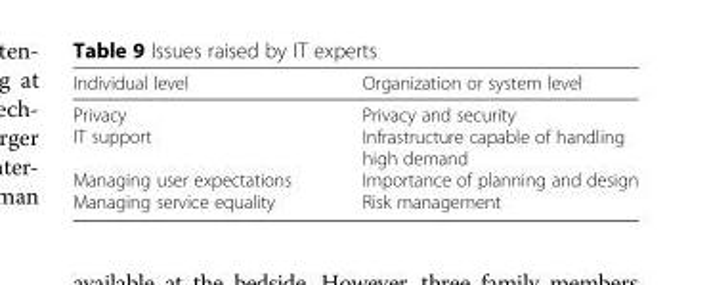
<table><thead><tr><td>Individual level</td><td>Organization or system level</td></tr></thead><tbody><tr><td>Privacy IT support Managing user expectations Managing service equality</td><td>Privacy and security Infrastructure capable of handling high demand Importance of planning and design Risk management</td></tr></tbody></table>